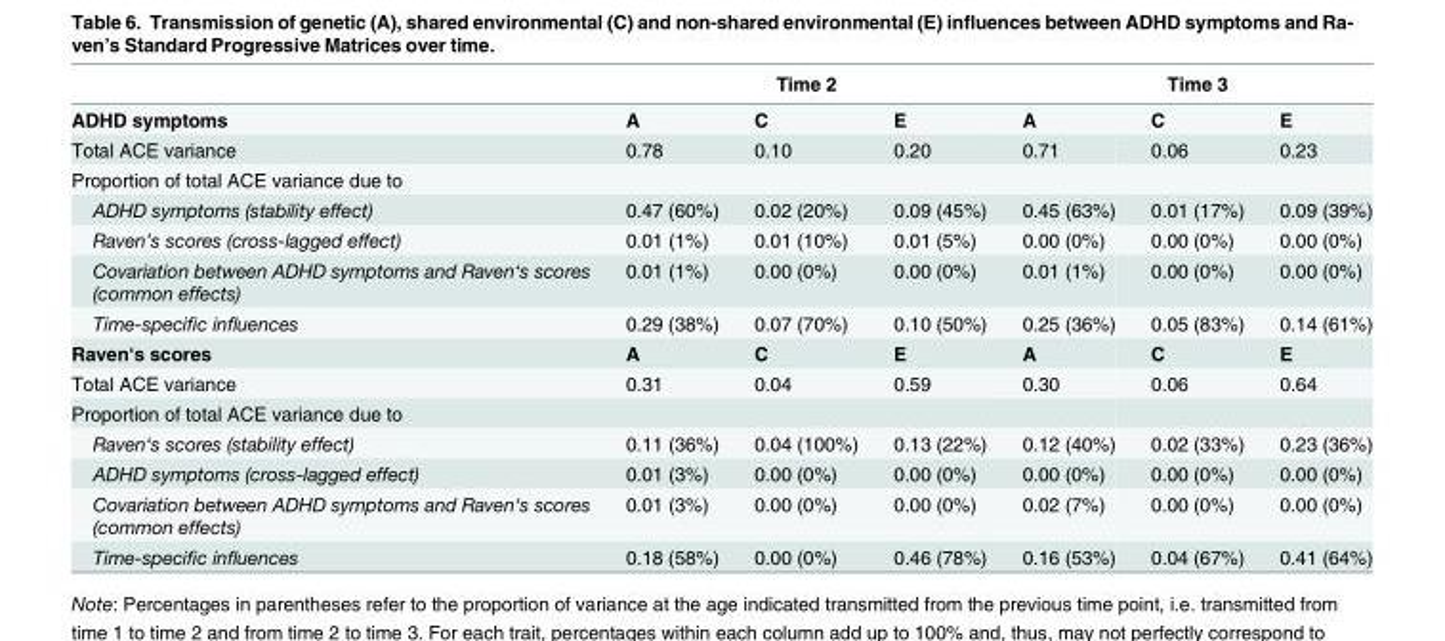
<table><thead><tr><td rowspan="2">ADHD symptoms</td><td colspan="3">Time 2</td><td colspan="3">Time 3</td></tr><tr><td>A</td><td>C</td><td>E</td><td>A</td><td>C</td><td>E</td></tr></thead><tbody><tr><td>Total ACE variance</td><td>0.78</td><td>0.10</td><td>0.20</td><td>0.71</td><td>0.06</td><td>0.23</td></tr><tr><td colspan="7">Proportion of total ACE variance due to</td></tr><tr><td>ADHD symptoms (stability effect)</td><td>0.47 (60%)</td><td>0.02 (20%)</td><td>0.09 (45%)</td><td>0.45 (63%)</td><td>0.01 (17%)</td><td>0.09 (39%)</td></tr><tr><td>Raven’s scores (cross-lagged effect)</td><td>0.01 (1%)</td><td>0.01 (10%)</td><td>0.01 (5%)</td><td>0.00 (0%)</td><td>0.00 (0%)</td><td>0.00 (0%)</td></tr><tr><td>Covariation between ADHD symptoms and Raven‘s scores (common effects)</td><td>0.01 (1%)</td><td>0.00 (0%)</td><td>0.00 (0%)</td><td>0.01 (1%)</td><td>0.00 (0%)</td><td>0.00 (0%)</td></tr><tr><td>Time-specific influences</td><td>0.29 (38%)</td><td>0.07 (70%)</td><td>0.10 (50%)</td><td>0.25 (36%)</td><td>0.05 (83%)</td><td>0.14 (61%)</td></tr><tr><td>Raven‘s scores</td><td>A</td><td>C</td><td>E</td><td>A</td><td>C</td><td>E</td></tr><tr><td>Total ACE variance</td><td>0.31</td><td>0.04</td><td>0.59</td><td>0.30</td><td>0.06</td><td>0.64</td></tr><tr><td colspan="7">Proportion of total ACE variance due to</td></tr><tr><td>Raven‘s scores (stability effect)</td><td>0.11 (36%)</td><td>0.04 (100%)</td><td>0.13 (22%)</td><td>0.12 (40%)</td><td>0.02 (33%)</td><td>0.23 (36%)</td></tr><tr><td>ADHD symptoms (cross-lagged effect)</td><td>0.01 (3%)</td><td>0.00 (0%)</td><td>0.00 (0%)</td><td>0.00 (0%)</td><td>0.00 (0%)</td><td>0.00 (0%)</td></tr><tr><td>Covariation between ADHD symptoms and Raven‘s scores (common effects)</td><td>0.01 (3%)</td><td>0.00 (0%)</td><td>0.00 (0%)</td><td>0.02 (7%)</td><td>0.00 (0%)</td><td>0.00 (0%)</td></tr><tr><td>Time-specific influences</td><td>0.18 (58%)</td><td>0.00 (0%)</td><td>0.46 (78%)</td><td>0.16 (53%)</td><td>0.04 (67%)</td><td>0.41 (64%)</td></tr></tbody></table>